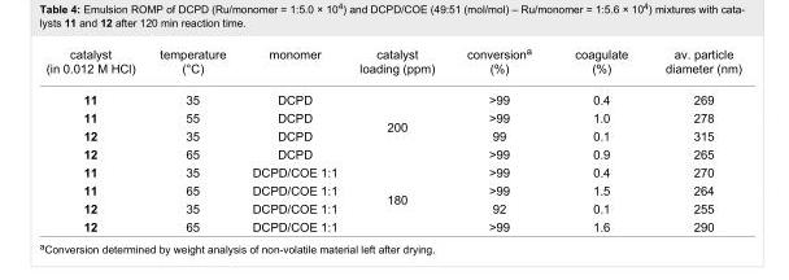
<table><tbody><tr><td>catalyst (in 0.012 M HCl)</td><td>temperature (°C)</td><td>monomer</td><td>catalyst loading (ppm)</td><td>conversion<sup>a</sup> (%)</td><td>coagulate (%)</td><td>av. particle diameter (nm)</td></tr><tr><td>11</td><td>35</td><td>DCPD</td><td rowspan="4">200</td><td>&gt;99</td><td>0.4</td><td>269</td></tr><tr><td>11</td><td>55</td><td>DCPD</td><td>&gt;99</td><td>1.0</td><td>278</td></tr><tr><td>12</td><td>35</td><td>DCPD</td><td>99</td><td>0.1</td><td>315</td></tr><tr><td>12</td><td>65</td><td>DCPD</td><td>&gt;99</td><td>0.9</td><td>265</td></tr><tr><td>11</td><td>35</td><td>DCPD/COE 1:1</td><td rowspan="4">180</td><td>&gt;99</td><td>0.4</td><td>270</td></tr><tr><td>11</td><td>65</td><td>DCPD/COE 1:1</td><td>&gt;99</td><td>1.5</td><td>264</td></tr><tr><td>12</td><td>35</td><td>DCPD/COE 1:1</td><td>92</td><td>0.1</td><td>255</td></tr><tr><td>12</td><td>65</td><td>DCPD/COE 1:1</td><td>&gt;99</td><td>1.6</td><td>290</td></tr></tbody></table>